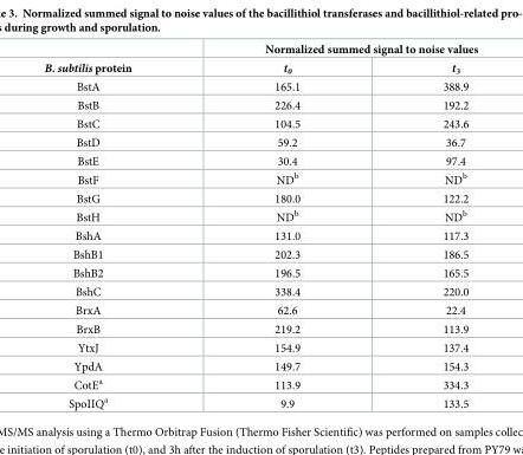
<table><thead><tr><td rowspan="2">B. subtilis protein</td><td colspan="2">Normalized summed signal to noise values</td></tr><tr><td>t<sub>0</sub></td><td>t<sub>3</sub></td></tr></thead><tbody><tr><td>BstA</td><td>165.1</td><td>388.9</td></tr><tr><td>BstB</td><td>226.4</td><td>192.2</td></tr><tr><td>BstC</td><td>104.5</td><td>243.6</td></tr><tr><td>BstD</td><td>59.2</td><td>36.7</td></tr><tr><td>BstE</td><td>30.4</td><td>97.4</td></tr><tr><td>BstF</td><td>ND<sup>b</sup></td><td>ND<sup>b</sup></td></tr><tr><td>BstG</td><td>180.0</td><td>122.2</td></tr><tr><td>BstH</td><td>ND<sup>b</sup></td><td>ND<sup>b</sup></td></tr><tr><td>BshA</td><td>131.0</td><td>117.3</td></tr><tr><td>BshB1</td><td>202.3</td><td>186.5</td></tr><tr><td>BshB2</td><td>196.5</td><td>165.5</td></tr><tr><td>BshC</td><td>338.4</td><td>220.0</td></tr><tr><td>BrxA</td><td>62.6</td><td>22.4</td></tr><tr><td>BrxB</td><td>219.2</td><td>113.9</td></tr><tr><td>YtxJ</td><td>154.9</td><td>137.4</td></tr><tr><td>YpdA</td><td>149.7</td><td>154.3</td></tr><tr><td>CotE<sup>a</sup></td><td>113.9</td><td>334.3</td></tr><tr><td>SpoIIQ<sup>a</sup></td><td>9.9</td><td>133.5</td></tr></tbody></table>